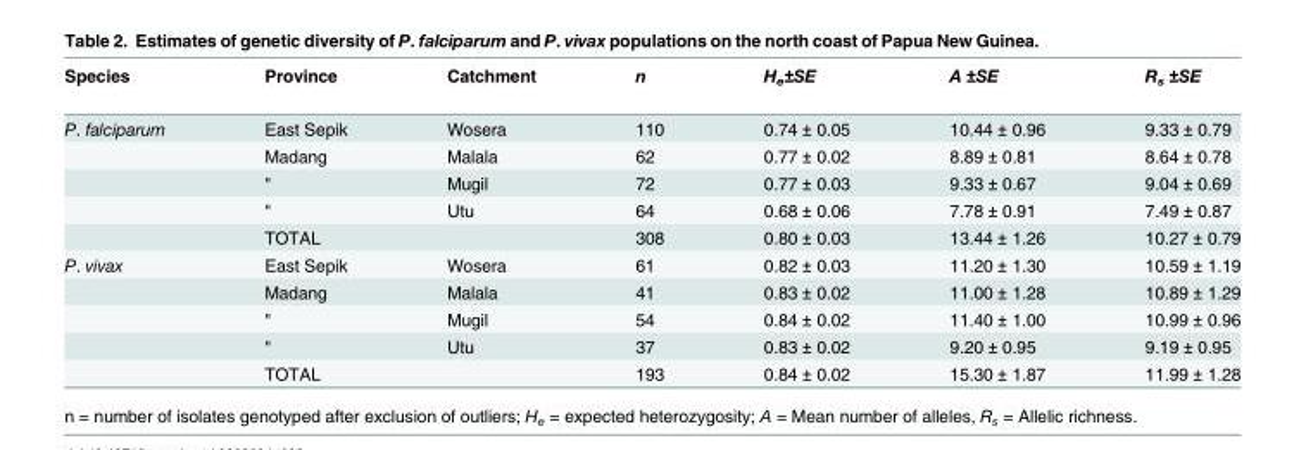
<table><thead><tr><td>Species</td><td>Province</td><td>Catchment</td><td>n</td><td>H<sub>e</sub>±SE</td><td>A ±SE</td><td>R<sub>s</sub> ±SE</td></tr></thead><tbody><tr><td rowspan="5">P. falciparum</td><td>East Sepik</td><td>Wosera</td><td>110</td><td>0.74 ± 0.05</td><td>10.44 ± 0.96</td><td>9.33 ± 0.79</td></tr><tr><td>Madang</td><td>Malala</td><td>62</td><td>0.77 ± 0.02</td><td>8.89 ± 0.81</td><td>8.64 ± 0.78</td></tr><tr><td>&quot;</td><td>Mugil</td><td>72</td><td>0.77 ± 0.03</td><td>9.33 ± 0.67</td><td>9.04 ± 0.69</td></tr><tr><td>&quot;</td><td>Utu</td><td>64</td><td>0.68 ± 0.06</td><td>7.78 ± 0.91</td><td>7.49 ± 0.87</td></tr><tr><td>TOTAL</td><td></td><td>308</td><td>0.80 ± 0.03</td><td>13.44 ± 1.26</td><td>10.27 ± 0.79</td></tr><tr><td rowspan="5">P. vivax</td><td>East Sepik</td><td>Wosera</td><td>61</td><td>0.82 ± 0.03</td><td>11.20 ± 1.30</td><td>10.59 ± 1.19</td></tr><tr><td>Madang</td><td>Malala</td><td>41</td><td>0.83 ± 0.02</td><td>11.00 ± 1.28</td><td>10.89 ± 1.29</td></tr><tr><td>&quot;</td><td>Mugil</td><td>54</td><td>0.84 ± 0.02</td><td>11.40 ± 1.00</td><td>10.99 ± 0.96</td></tr><tr><td>&quot;</td><td>Utu</td><td>37</td><td>0.83 ± 0.02</td><td>9.20 ± 0.95</td><td>9.19 ± 0.95</td></tr><tr><td>TOTAL</td><td></td><td>193</td><td>0.84 ± 0.02</td><td>15.30 ± 1.87</td><td>11.99 ± 1.28</td></tr></tbody></table>